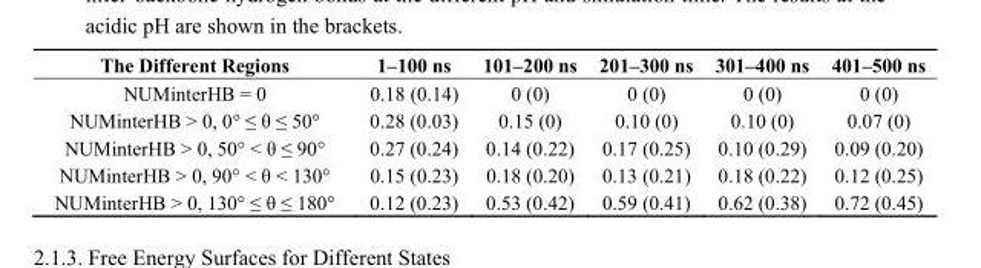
<table><thead><tr><td>The Different Regions</td><td>1–100 ns</td><td>101–200 ns</td><td>201–300 ns</td><td>301–400 ns</td><td>401–500 ns</td></tr></thead><tbody><tr><td>NUMinterHB = 0</td><td>0.18 (0.14)</td><td>0 (0)</td><td>0 (0)</td><td>0 (0)</td><td>0 (0)</td></tr><tr><td>NUMinterHB &gt; 0, 0° ≤ θ ≤ 50°</td><td>0.28 (0.03)</td><td>0.15 (0)</td><td>0.10 (0)</td><td>0.10 (0)</td><td>0.07 (0)</td></tr><tr><td>NUMinterHB &gt; 0, 50° &lt; θ ≤ 90°</td><td>0.27 (0.24)</td><td>0.14 (0.22)</td><td>0.17 (0.25)</td><td>0.10 (0.29)</td><td>0.09 (0.20)</td></tr><tr><td>NUMinterHB &gt; 0, 90° &lt; θ &lt; 130°</td><td>0.15 (0.23)</td><td>0.18 (0.20)</td><td>0.13 (0.21)</td><td>0.18 (0.22)</td><td>0.12 (0.25)</td></tr><tr><td>NUMinterHB &gt; 0, 130° ≤ θ ≤ 180°</td><td>0.12 (0.23)</td><td>0.53 (0.42)</td><td>0.59 (0.41)</td><td>0.62 (0.38)</td><td>0.72 (0.45)</td></tr></tbody></table>